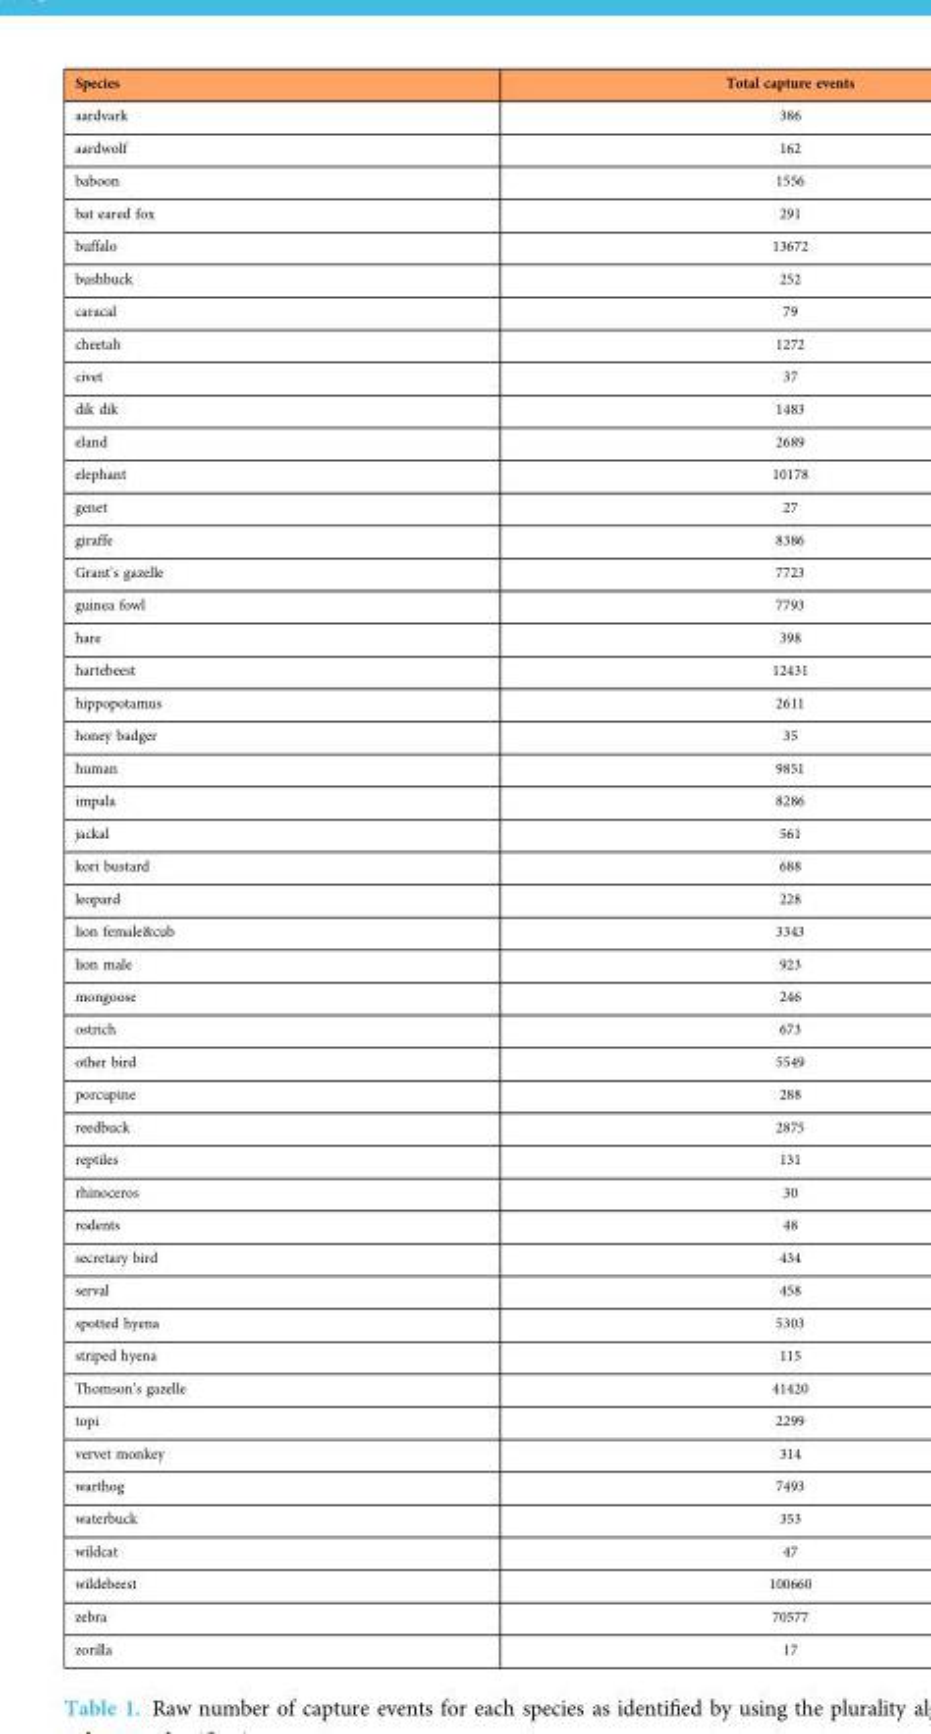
<table><thead><tr><td>Species</td><td>Total capture events</td></tr></thead><tbody><tr><td>aardvark</td><td>386</td></tr><tr><td>aardwolf</td><td>162</td></tr><tr><td>baboon</td><td>1556</td></tr><tr><td>bat eared fox</td><td>291</td></tr><tr><td>buffalo</td><td>13672</td></tr><tr><td>bushbuck</td><td>252</td></tr><tr><td>caracal</td><td>79</td></tr><tr><td>cheetah</td><td>1272</td></tr><tr><td>civet</td><td>37</td></tr><tr><td>dik dik</td><td>1483</td></tr><tr><td>eland</td><td>2689</td></tr><tr><td>elephant</td><td>10178</td></tr><tr><td>genet</td><td>27</td></tr><tr><td>giraffe</td><td>8386</td></tr><tr><td>Grant’s gazelle</td><td>7723</td></tr><tr><td>guinea fowl</td><td>7793</td></tr><tr><td>hare</td><td>398</td></tr><tr><td>hartebeest</td><td>12431</td></tr><tr><td>hippopotamus</td><td>2611</td></tr><tr><td>honey badger</td><td>35</td></tr><tr><td>human</td><td>9851</td></tr><tr><td>impala</td><td>8286</td></tr><tr><td>jackal</td><td>561</td></tr><tr><td>kori bustard</td><td>688</td></tr><tr><td>leopard</td><td>228</td></tr><tr><td>lion female&amp;cub</td><td>3343</td></tr><tr><td>lion male</td><td>923</td></tr><tr><td>mongoose</td><td>246</td></tr><tr><td>ostrich</td><td>673</td></tr><tr><td>other bird</td><td>5549</td></tr><tr><td>porcupine</td><td>288</td></tr><tr><td>reedbuck</td><td>2875</td></tr><tr><td>reptiles</td><td>131</td></tr><tr><td>rhinoceros</td><td>30</td></tr><tr><td>rodents</td><td>48</td></tr><tr><td>secretary bird</td><td>434</td></tr><tr><td>serval</td><td>458</td></tr><tr><td>spotted hyena</td><td>5303</td></tr><tr><td>striped hyena</td><td>115</td></tr><tr><td>Thomson’s gazelle</td><td>41420</td></tr><tr><td>topi</td><td>2299</td></tr><tr><td>vervet monkey</td><td>314</td></tr><tr><td>warthog</td><td>7493</td></tr><tr><td>waterbuck</td><td>353</td></tr><tr><td>wildcat</td><td>47</td></tr><tr><td>wildebeest</td><td>100660</td></tr><tr><td>zebra</td><td>70577</td></tr><tr><td>zorilla</td><td>17</td></tr></tbody></table>